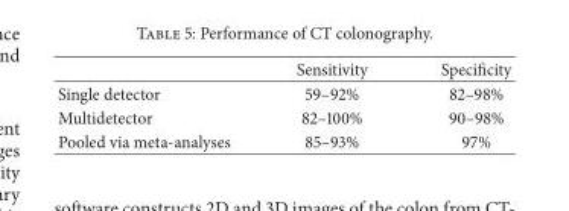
<table><thead><tr><td></td><td>Sensitivity</td><td>Specificity</td></tr></thead><tbody><tr><td>Single detector</td><td>59–92%</td><td>82–98%</td></tr><tr><td>Multidetector</td><td>82–100%</td><td>90–98%</td></tr><tr><td>Pooled via meta-analyses</td><td>85–93%</td><td>97%</td></tr></tbody></table>